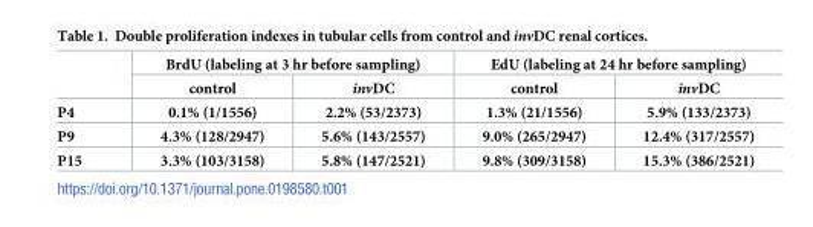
<table><thead><tr><td rowspan="2"></td><td colspan="2">BrdU (labeling at 3 hr before sampling)</td><td colspan="2">EdU (labeling at 24 hr before sampling)</td></tr><tr><td>control</td><td>invDC</td><td>control</td><td>invDC</td></tr></thead><tbody><tr><td>P4</td><td>0.1% (1/1556)</td><td>2.2% (53/2373)</td><td>1.3% (21/1556)</td><td>5.9% (133/2373)</td></tr><tr><td>P9</td><td>4.3% (128/2947)</td><td>5.6% (143/2557)</td><td>9.0% (265/2947)</td><td>12.4% (317/2557)</td></tr><tr><td>P15</td><td>3.3% (103/3158)</td><td>5.8% (147/2521)</td><td>9.8% (309/3158)</td><td>15.3% (386/2521)</td></tr></tbody></table>